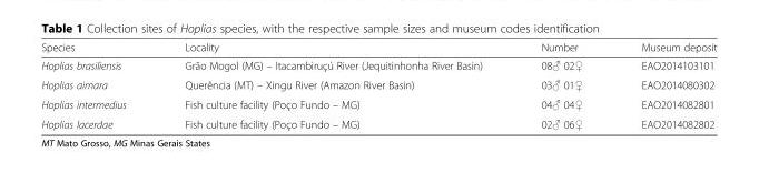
<table><thead><tr><td>Species</td><td>Locality</td><td>Number</td><td>Museum deposit</td></tr></thead><tbody><tr><td>Hoplias brasiliensis</td><td>Grão Mogol (MG) – Itacambiruçú River (Jequitinhonha River Basin)</td><td>08♂ 02♀</td><td>EAO2014103101</td></tr><tr><td>Hoplias aimara</td><td>Querência (MT) – Xingu River (Amazon River Basin)</td><td>03♂ 01♀</td><td>EAO2014080302</td></tr><tr><td>Hoplias intermedius</td><td>Fish culture facility (Poço Fundo – MG)</td><td>04♂ 04♀</td><td>EAO2014082801</td></tr><tr><td>Hoplias lacerdae</td><td>Fish culture facility (Poço Fundo – MG)</td><td>02♂ 06♀</td><td>EAO2014082802</td></tr></tbody></table>